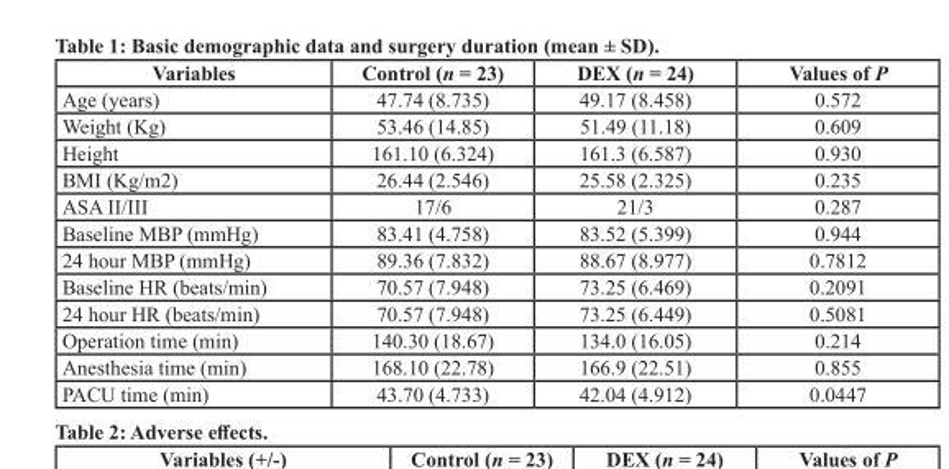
<table><thead><tr><td>Variables</td><td>Control (n = 23)</td><td>DEX (n = 24)</td><td>Values of P</td></tr></thead><tbody><tr><td>Age (years)</td><td>47.74 (8.735)</td><td>49.17 (8.458)</td><td>0.572</td></tr><tr><td>Weight (Kg)</td><td>53.46 (14.85)</td><td>51.49 (11.18)</td><td>0.609</td></tr><tr><td>Height</td><td>161.10 (6.324)</td><td>161.3 (6.587)</td><td>0.930</td></tr><tr><td>BMI (Kg/m2)</td><td>26.44 (2.546)</td><td>25.58 (2.325)</td><td>0.235</td></tr><tr><td>ASA II/III</td><td>17/6</td><td>21/3</td><td>0.287</td></tr><tr><td>Baseline MBP (mmHg)</td><td>83.41 (4.758)</td><td>83.52 (5.399)</td><td>0.944</td></tr><tr><td>24 hour MBP (mmHg)</td><td>89.36 (7.832)</td><td>88.67 (8.977)</td><td>0.7812</td></tr><tr><td>Baseline HR (beats/min)</td><td>70.57 (7.948)</td><td>73.25 (6.469)</td><td>0.2091</td></tr><tr><td>24 hour HR (beats/min)</td><td>70.57 (7.948)</td><td>73.25 (6.449)</td><td>0.5081</td></tr><tr><td>Operation time (min)</td><td>140.30 (18.67)</td><td>134.0 (16.05)</td><td>0.214</td></tr><tr><td>Anesthesia time (min)</td><td>168.10 (22.78)</td><td>166.9 (22.51)</td><td>0.855</td></tr><tr><td>PACU time (min)</td><td>43.70 (4.733)</td><td>42.04 (4.912)</td><td>0.0447</td></tr></tbody></table>